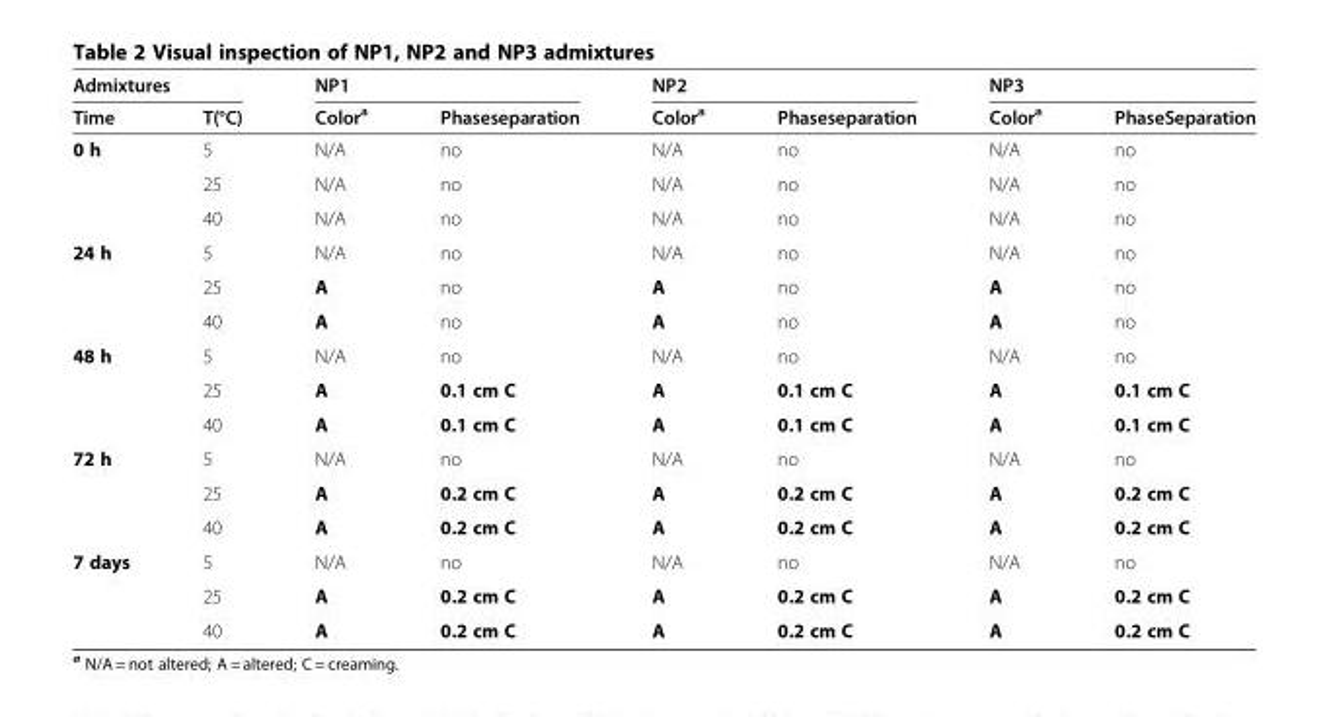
<table><thead><tr><td colspan="2">Admixtures</td><td colspan="2">NP1</td><td colspan="2">NP2</td><td colspan="2">NP3</td></tr><tr><td>Time</td><td>T(°C)</td><td>Color<sup>a</sup></td><td>Phaseseparation</td><td>Color<sup>a</sup></td><td>Phaseseparation</td><td>Color<sup>a</sup></td><td>PhaseSeparation</td></tr></thead><tbody><tr><td rowspan="3">0 h</td><td>5</td><td>N/A</td><td>no</td><td>N/A</td><td>no</td><td>N/A</td><td>no</td></tr><tr><td>25</td><td>N/A</td><td>no</td><td>N/A</td><td>no</td><td>N/A</td><td>no</td></tr><tr><td>40</td><td>N/A</td><td>no</td><td>N/A</td><td>no</td><td>N/A</td><td>no</td></tr><tr><td rowspan="3">24 h</td><td>5</td><td>N/A</td><td>no</td><td>N/A</td><td>no</td><td>N/A</td><td>no</td></tr><tr><td>25</td><td>A</td><td>no</td><td>A</td><td>no</td><td>A</td><td>no</td></tr><tr><td>40</td><td>A</td><td>no</td><td>A</td><td>no</td><td>A</td><td>no</td></tr><tr><td rowspan="3">48 h</td><td>5</td><td>N/A</td><td>no</td><td>N/A</td><td>no</td><td>N/A</td><td>no</td></tr><tr><td>25</td><td>A</td><td>0.1 cm C</td><td>A</td><td>0.1 cm C</td><td>A</td><td>0.1 cm C</td></tr><tr><td>40</td><td>A</td><td>0.1 cm C</td><td>A</td><td>0.1 cm C</td><td>A</td><td>0.1 cm C</td></tr><tr><td rowspan="3">72 h</td><td>5</td><td>N/A</td><td>no</td><td>N/A</td><td>no</td><td>N/A</td><td>no</td></tr><tr><td>25</td><td>A</td><td>0.2 cm C</td><td>A</td><td>0.2 cm C</td><td>A</td><td>0.2 cm C</td></tr><tr><td>40</td><td>A</td><td>0.2 cm C</td><td>A</td><td>0.2 cm C</td><td>A</td><td>0.2 cm C</td></tr><tr><td rowspan="3">7 days</td><td>5</td><td>N/A</td><td>no</td><td>N/A</td><td>no</td><td>N/A</td><td>no</td></tr><tr><td>25</td><td>A</td><td>0.2 cm C</td><td>A</td><td>0.2 cm C</td><td>A</td><td>0.2 cm C</td></tr><tr><td>40</td><td>A</td><td>0.2 cm C</td><td>A</td><td>0.2 cm C</td><td>A</td><td>0.2 cm C</td></tr></tbody></table>